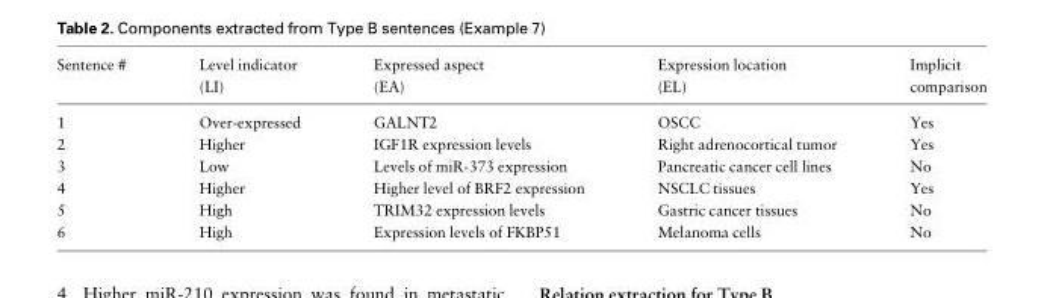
<table><thead><tr><td rowspan="2">Sentence #</td><td rowspan="2">Level indicator (LI)</td><td rowspan="2">Expressed aspect (EA)</td><td rowspan="2">Expression location (EL)</td><td rowspan="2">Implicit comparison</td></tr><tr></tr></thead><tbody><tr><td>1</td><td>Over-expressed</td><td>GALNT2</td><td>OSCC</td><td>Yes</td></tr><tr><td>2</td><td>Higher</td><td>IGF1R expression levels</td><td>Right adrenocortical tumor</td><td>Yes</td></tr><tr><td>3</td><td>Low</td><td>Levels of miR-373 expression</td><td>Pancreatic cancer cell lines</td><td>No</td></tr><tr><td>4</td><td>Higher</td><td>Higher level of BRF2 expression</td><td>NSCLC tissues</td><td>Yes</td></tr><tr><td>5</td><td>High</td><td>TRIM32 expression levels</td><td>Gastric cancer tissues</td><td>No</td></tr><tr><td>6</td><td>High</td><td>Expression levels of FKBP51</td><td>Melanoma cells</td><td>No</td></tr></tbody></table>